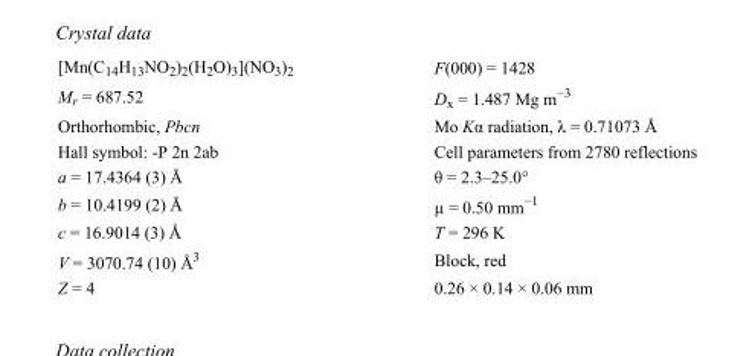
<table><tbody><tr><td>[Mn(C<sub>14</sub>H<sub>13</sub>NO<sub>2</sub>)<sub>2</sub>(H<sub>2</sub>O)<sub>3</sub>](NO<sub>3</sub>)<sub>2</sub></td><td>F(000) = 1428</td></tr><tr><td>M<sub>r</sub> = 687.52</td><td>D<sub>x</sub> = 1.487 Mg m<sup>−3</sup></td></tr><tr><td>Orthorhombic, Pbcn</td><td>Mo Kα radiation, λ = 0.71073 Å</td></tr><tr><td>Hall symbol: -P 2n 2ab</td><td>Cell parameters from 2780 reflections</td></tr><tr><td>a = 17.4364 (3) Å</td><td>θ = 2.3–25.0°</td></tr><tr><td>b = 10.4199 (2) Å</td><td>µ = 0.50 mm<sup>−1</sup></td></tr><tr><td>c = 16.9014 (3) Å</td><td>T = 296 K</td></tr><tr><td>V = 3070.74 (10) Å<sup>3</sup></td><td>Block, red</td></tr><tr><td>Z = 4</td><td>0.26 × 0.14 × 0.06 mm</td></tr></tbody></table>